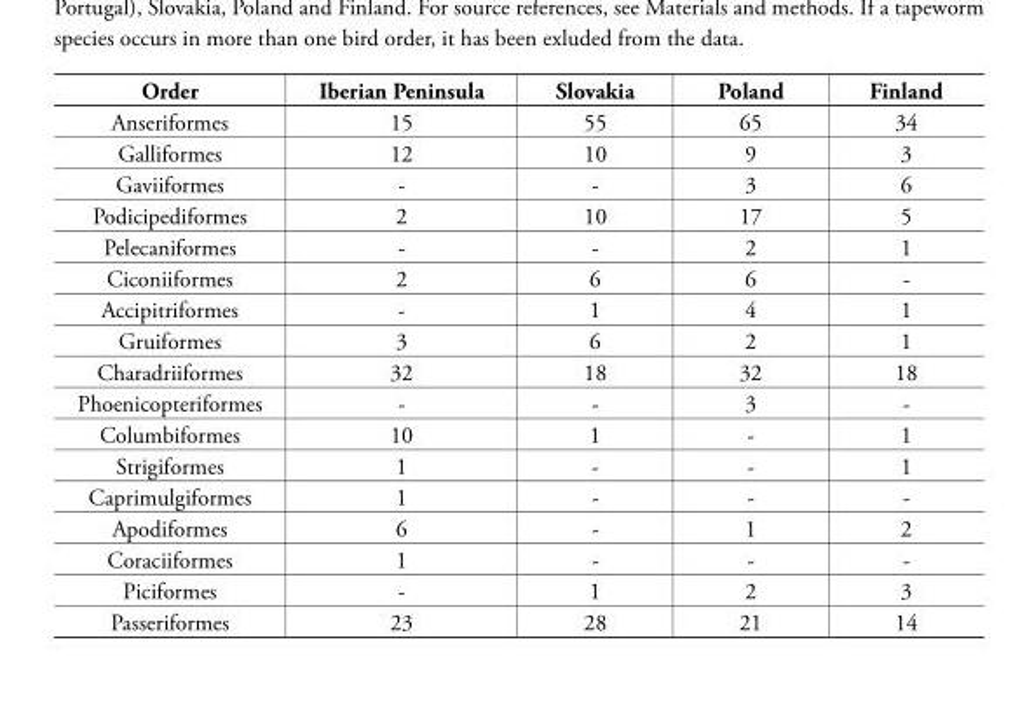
<table><thead><tr><td>Order</td><td>Iberian Peninsula</td><td>Slovakia</td><td>Poland</td><td>Finland</td></tr></thead><tbody><tr><td>Anseriformes</td><td>15</td><td>55</td><td>65</td><td>34</td></tr><tr><td>Galliformes</td><td>12</td><td>10</td><td>9</td><td>3</td></tr><tr><td>Gaviiformes</td><td>-</td><td>-</td><td>3</td><td>6</td></tr><tr><td>Podicipediformes</td><td>2</td><td>10</td><td>17</td><td>5</td></tr><tr><td>Pelecaniformes</td><td>-</td><td>-</td><td>2</td><td>1</td></tr><tr><td>Ciconiiformes</td><td>2</td><td>6</td><td>6</td><td>-</td></tr><tr><td>Accipitriformes</td><td>-</td><td>1</td><td>4</td><td>1</td></tr><tr><td>Gruiformes</td><td>3</td><td>6</td><td>2</td><td>1</td></tr><tr><td>Charadriiformes</td><td>32</td><td>18</td><td>32</td><td>18</td></tr><tr><td>Phoenicopteriformes</td><td>-</td><td>-</td><td>3</td><td>-</td></tr><tr><td>Columbiformes</td><td>10</td><td>1</td><td>-</td><td>1</td></tr><tr><td>Strigiformes</td><td>1</td><td>-</td><td>-</td><td>1</td></tr><tr><td>Caprimulgiformes</td><td>1</td><td>-</td><td>-</td><td>-</td></tr><tr><td>Apodiformes</td><td>6</td><td>-</td><td>1</td><td>2</td></tr><tr><td>Coraciiformes</td><td>1</td><td>-</td><td>-</td><td>-</td></tr><tr><td>Piciformes</td><td>-</td><td>1</td><td>2</td><td>3</td></tr><tr><td>Passeriformes</td><td>23</td><td>28</td><td>21</td><td>14</td></tr></tbody></table>